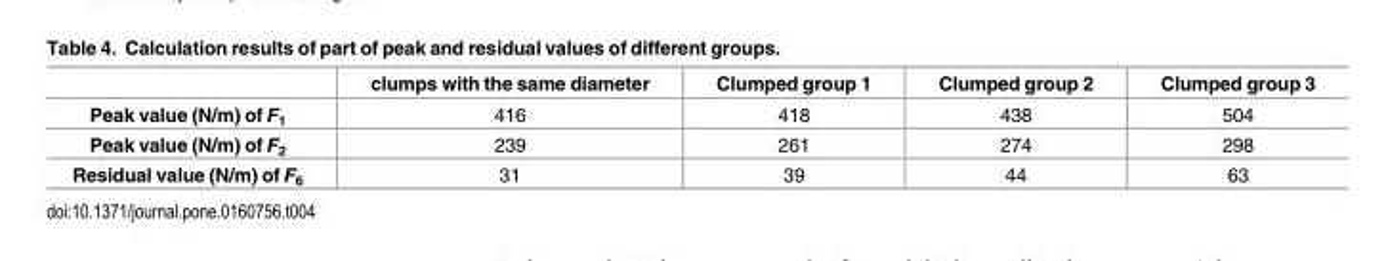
<table><thead><tr><td></td><td>clumps with the same diameter</td><td>Clumped group 1</td><td>Clumped group 2</td><td>Clumped group 3</td></tr></thead><tbody><tr><td>Peak value (N/m) of F<sub>1</sub></td><td>416</td><td>418</td><td>438</td><td>504</td></tr><tr><td>Peak value (N/m) of F<sub>2</sub></td><td>239</td><td>261</td><td>274</td><td>298</td></tr><tr><td>Residual value (N/m) of F<sub>6</sub></td><td>31</td><td>39</td><td>44</td><td>63</td></tr></tbody></table>